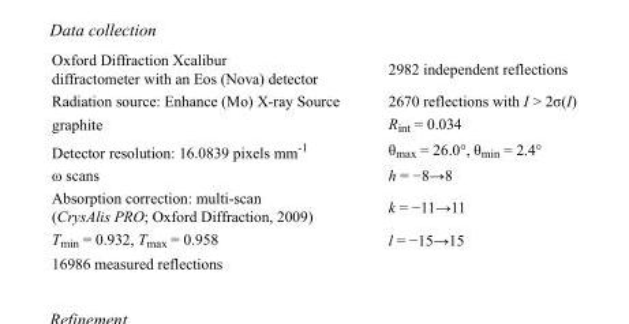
<table><tbody><tr><td>Oxford Diffraction Xcalibur diffractometer with an Eos (Nova) detector</td><td>2982 independent reflections</td></tr><tr><td>Radiation source: Enhance (Mo) X-ray Source</td><td>2670 reflections with I &gt; 2σ(I)</td></tr><tr><td>graphite</td><td>R<sub>int</sub> = 0.034</td></tr><tr><td>Detector resolution: 16.0839 pixels mm<sup>-1</sup></td><td>θ<sub>max</sub> = 26.0°, θ<sub>min</sub> = 2.4°</td></tr><tr><td>ω scans</td><td>h = −8→8</td></tr><tr><td>Absorption correction: multi-scan (CrysAlis PRO; Oxford Diffraction, 2009)</td><td>k = −11→11</td></tr><tr><td>T<sub>min</sub> = 0.932, T<sub>max</sub> = 0.958</td><td>l = −15→15</td></tr><tr><td>16986 measured reflections</td><td></td></tr></tbody></table>